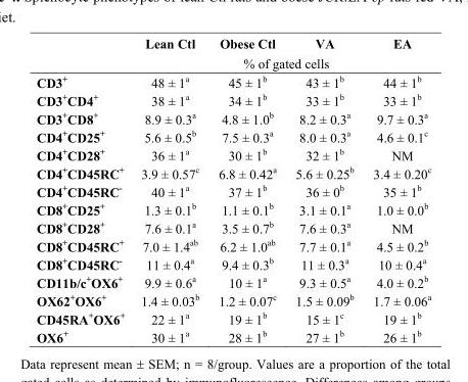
<table><thead><tr><td rowspan="2"></td><td>Lean Ctl</td><td>Obese Ctl</td><td>VA</td><td>EA</td></tr><tr><td colspan="4">% of gated cells</td></tr></thead><tbody><tr><td>CD3<sup>+</sup></td><td>48 ± 1<sup>a</sup></td><td>45 ± 1<sup>b</sup></td><td>43 ± 1<sup>b</sup></td><td>44 ± 1<sup>b</sup></td></tr><tr><td>CD3<sup>+</sup>CD4<sup>+</sup></td><td>38 ± 1<sup>a</sup></td><td>34 ± 1<sup>b</sup></td><td>33 ± 1<sup>b</sup></td><td>33 ± 1<sup>b</sup></td></tr><tr><td>CD3<sup>+</sup>CD8<sup>+</sup></td><td>8.9 ± 0.3<sup>a</sup></td><td>4.8 ± 1.0<sup>b</sup></td><td>8.2 ± 0.3<sup>a</sup></td><td>9.7 ± 0.3<sup>a</sup></td></tr><tr><td>CD4<sup>+</sup>CD25<sup>+</sup></td><td>5.6 ± 0.5<sup>b</sup></td><td>7.5 ± 0.3<sup>a</sup></td><td>8.0 ± 0.3<sup>a</sup></td><td>4.6 ± 0.1<sup>c</sup></td></tr><tr><td>CD4<sup>+</sup>CD28<sup>+</sup></td><td>36 ± 1<sup>a</sup></td><td>30 ± 1<sup>b</sup></td><td>32 ± 1<sup>b</sup></td><td>NM</td></tr><tr><td>CD4<sup>+</sup>CD45RC<sup>+</sup></td><td>3.9 ± 0.57<sup>c</sup></td><td>6.8 ± 0.42<sup>a</sup></td><td>5.6 ± 0.25<sup>b</sup></td><td>3.4 ± 0.20<sup>c</sup></td></tr><tr><td>CD4<sup>+</sup>CD45RC<sup>-</sup></td><td>40 ± 1<sup>a</sup></td><td>37 ± 1<sup>b</sup></td><td>36 ± 0<sup>b</sup></td><td>35 ± 1<sup>b</sup></td></tr><tr><td>CD8<sup>+</sup>CD25<sup>+</sup></td><td>1.3 ± 0.1<sup>b</sup></td><td>1.1 ± 0.1<sup>b</sup></td><td>3.1 ± 0.1<sup>a</sup></td><td>1.0 ± 0.0<sup>b</sup></td></tr><tr><td>CD8<sup>+</sup>CD28<sup>+</sup></td><td>7.6 ± 0.1<sup>a</sup></td><td>3.5 ± 0.7<sup>b</sup></td><td>7.6 ± 0.3<sup>a</sup></td><td>NM</td></tr><tr><td>CD8<sup>+</sup>CD45RC<sup>+</sup></td><td>7.0 ± 1.4<sup>ab</sup></td><td>6.2 ± 1.0<sup>ab</sup></td><td>7.7 ± 0.1<sup>a</sup></td><td>4.5 ± 0.2<sup>b</sup></td></tr><tr><td>CD8<sup>+</sup>CD45RC<sup>-</sup></td><td>11 ± 0.4<sup>a</sup></td><td>9.4 ± 0.3<sup>b</sup></td><td>11 ± 0.3<sup>a</sup></td><td>10 ± 0.4<sup>a</sup></td></tr><tr><td>CD11b/c<sup>+</sup>OX6<sup>+</sup></td><td>9.9 ± 0.6<sup>a</sup></td><td>10 ± 1<sup>a</sup></td><td>9.3 ± 0.5<sup>a</sup></td><td>4.0 ± 0.2<sup>b</sup></td></tr><tr><td>OX62<sup>+</sup>OX6<sup>+</sup></td><td>1.4 ± 0.03<sup>b</sup></td><td>1.2 ± 0.07<sup>c</sup></td><td>1.5 ± 0.09<sup>b</sup></td><td>1.7 ± 0.06<sup>a</sup></td></tr><tr><td>CD45RA<sup>+</sup>OX6<sup>+</sup></td><td>22 ± 1<sup>a</sup></td><td>19 ± 1<sup>b</sup></td><td>15 ± 1<sup>c</sup></td><td>19 ± 1<sup>b</sup></td></tr><tr><td>OX6<sup>+</sup></td><td>30 ± 1<sup>a</sup></td><td>28 ± 1<sup>b</sup></td><td>27 ± 1<sup>b</sup></td><td>26 ± 1<sup>b</sup></td></tr></tbody></table>